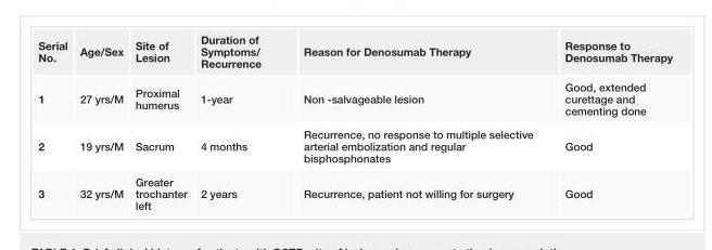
<table><tbody><tr><td>Serial No.</td><td>Age/Sex</td><td>Site of Lesion</td><td>Duration of Symptoms/ Recurrence</td><td>Reason for Denosumab Therapy</td><td>Response to Denosumab Therapy</td></tr><tr><td>1</td><td>27 yrs/M</td><td>Proximal humerus</td><td>1-year</td><td>Non -salvageable lesion</td><td>Good, extended curettage and cementing done</td></tr><tr><td>2</td><td>19 yrs/M</td><td>Sacrum</td><td>4 months</td><td>Recurrence, no response to multiple selective arterial embolization and regular bisphosphonates</td><td>Good</td></tr><tr><td>3</td><td>32 yrs/M</td><td>Greater trochanter left</td><td>2 years</td><td>Recurrence, patient not willing for surgery</td><td>Good</td></tr></tbody></table>